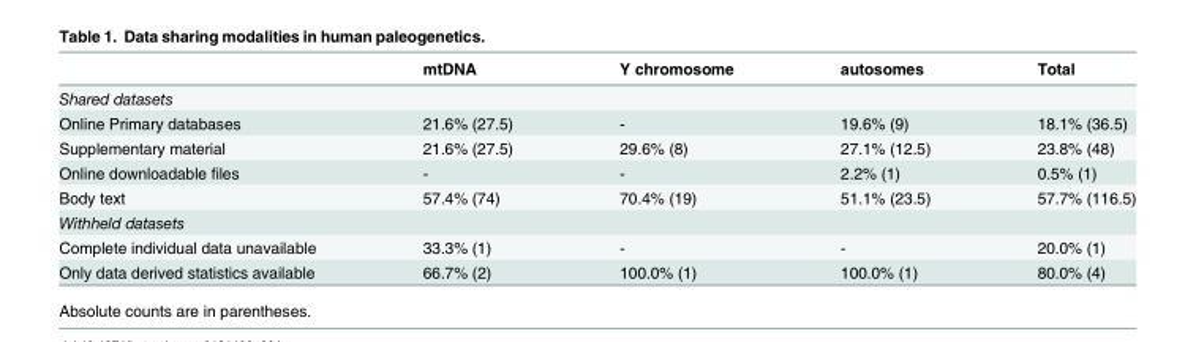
<table><thead><tr><td></td><td>mtDNA</td><td>Y chromosome</td><td>autosomes</td><td>Total</td></tr></thead><tbody><tr><td colspan="5">Shared datasets</td></tr><tr><td>Online Primary databases</td><td>21.6% (27.5)</td><td>-</td><td>19.6% (9)</td><td>18.1% (36.5)</td></tr><tr><td>Supplementary material</td><td>21.6% (27.5)</td><td>29.6% (8)</td><td>27.1% (12.5)</td><td>23.8% (48)</td></tr><tr><td>Online downloadable files</td><td>-</td><td>-</td><td>2.2% (1)</td><td>0.5% (1)</td></tr><tr><td>Body text</td><td>57.4% (74)</td><td>70.4% (19)</td><td>51.1% (23.5)</td><td>57.7% (116.5)</td></tr><tr><td colspan="5">Withheld datasets</td></tr><tr><td>Complete individual data unavailable</td><td>33.3% (1)</td><td>-</td><td>-</td><td>20.0% (1)</td></tr><tr><td>Only data derived statistics available</td><td>66.7% (2)</td><td>100.0% (1)</td><td>100.0% (1)</td><td>80.0% (4)</td></tr></tbody></table>